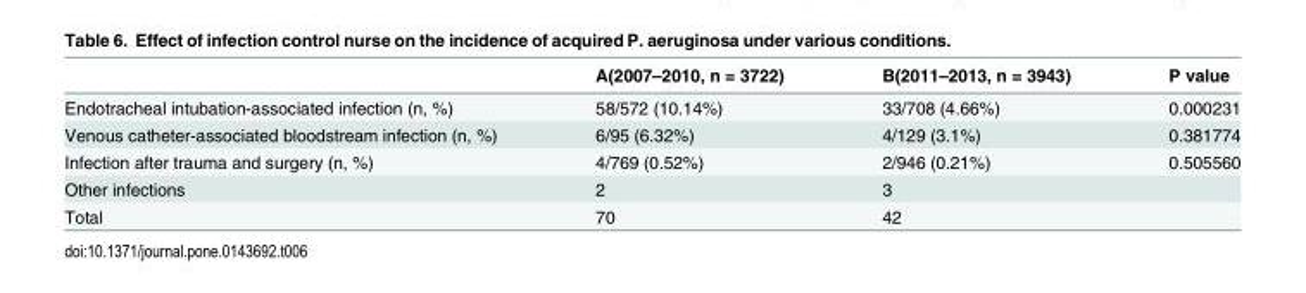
<table><thead><tr><td></td><td>A(2007–2010, n = 3722)</td><td>B(2011–2013, n = 3943)</td><td>P value</td></tr></thead><tbody><tr><td>Endotracheal intubation-associated infection (n, %)</td><td>58/572 (10.14%)</td><td>33/708 (4.66%)</td><td>0.000231</td></tr><tr><td>Venous catheter-associated bloodstream infection (n, %)</td><td>6/95 (6.32%)</td><td>4/129 (3.1%)</td><td>0.381774</td></tr><tr><td>Infection after trauma and surgery (n, %)</td><td>4/769 (0.52%)</td><td>2/946 (0.21%)</td><td>0.505560</td></tr><tr><td>Other infections</td><td>2</td><td>3</td><td></td></tr><tr><td>Total</td><td>70</td><td>42</td><td></td></tr></tbody></table>